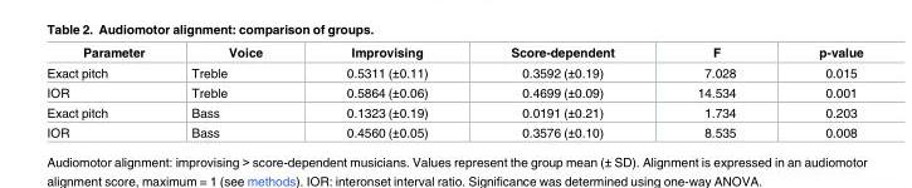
<table><thead><tr><td>Parameter</td><td>Voice</td><td>Improvising</td><td>Score-dependent</td><td>F</td><td>p-value</td></tr></thead><tbody><tr><td>Exact pitch</td><td>Treble</td><td>0.5311 (±0.11)</td><td>0.3592 (±0.19)</td><td>7.028</td><td>0.015</td></tr><tr><td>IOR</td><td>Treble</td><td>0.5864 (±0.06)</td><td>0.4699 (±0.09)</td><td>14.534</td><td>0.001</td></tr><tr><td>Exact pitch</td><td>Bass</td><td>0.1323 (±0.19)</td><td>0.0191 (±0.21)</td><td>1.734</td><td>0.203</td></tr><tr><td>IOR</td><td>Bass</td><td>0.4560 (±0.05)</td><td>0.3576 (±0.10)</td><td>8.535</td><td>0.008</td></tr></tbody></table>